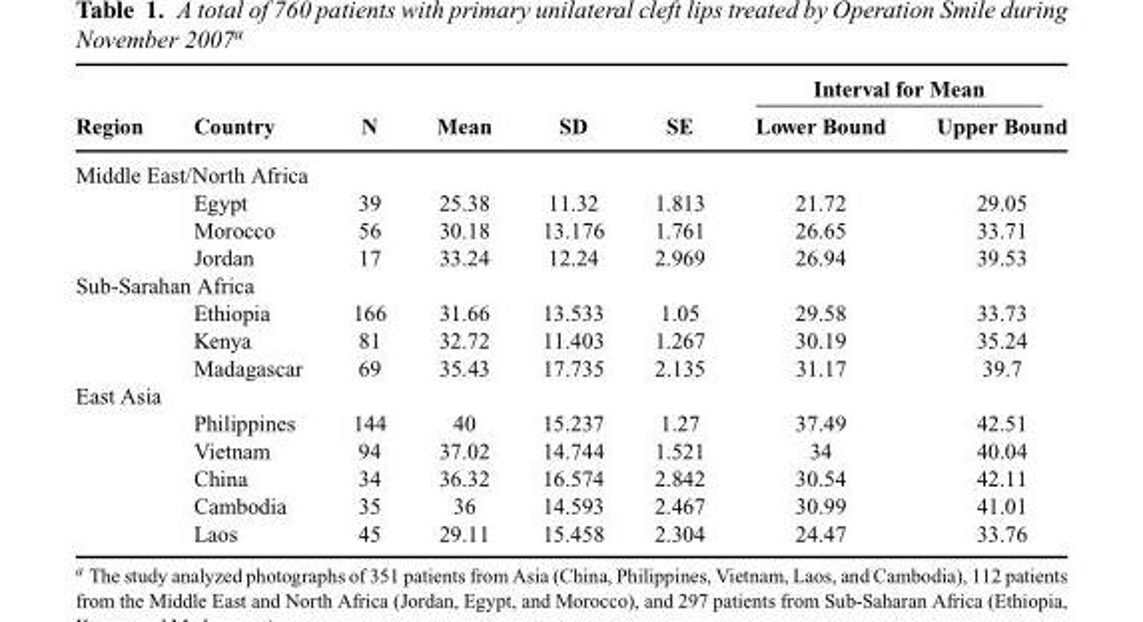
<table><thead><tr><td rowspan="2">Region</td><td rowspan="2">Country</td><td rowspan="2">N</td><td rowspan="2">Mean</td><td rowspan="2">SD</td><td rowspan="2">SE</td><td colspan="2">Interval for Mean</td></tr><tr><td>Lower Bound</td><td>Upper Bound</td></tr></thead><tbody><tr><td colspan="8">Middle East/North Africa</td></tr><tr><td></td><td>Egypt</td><td>39</td><td>25.38</td><td>11.32</td><td>1.813</td><td>21.72</td><td>29.05</td></tr><tr><td></td><td>Morocco</td><td>56</td><td>30.18</td><td>13.176</td><td>1.761</td><td>26.65</td><td>33.71</td></tr><tr><td></td><td>Jordan</td><td>17</td><td>33.24</td><td>12.24</td><td>2.969</td><td>26.94</td><td>39.53</td></tr><tr><td colspan="8">Sub-Sarahan Africa</td></tr><tr><td></td><td>Ethiopia</td><td>166</td><td>31.66</td><td>13.533</td><td>1.05</td><td>29.58</td><td>33.73</td></tr><tr><td></td><td>Kenya</td><td>81</td><td>32.72</td><td>11.403</td><td>1.267</td><td>30.19</td><td>35.24</td></tr><tr><td></td><td>Madagascar</td><td>69</td><td>35.43</td><td>17.735</td><td>2.135</td><td>31.17</td><td>39.7</td></tr><tr><td colspan="8">East Asia</td></tr><tr><td></td><td>Philippines</td><td>144</td><td>40</td><td>15.237</td><td>1.27</td><td>37.49</td><td>42.51</td></tr><tr><td></td><td>Vietnam</td><td>94</td><td>37.02</td><td>14.744</td><td>1.521</td><td>34</td><td>40.04</td></tr><tr><td></td><td>China</td><td>34</td><td>36.32</td><td>16.574</td><td>2.842</td><td>30.54</td><td>42.11</td></tr><tr><td></td><td>Cambodia</td><td>35</td><td>36</td><td>14.593</td><td>2.467</td><td>30.99</td><td>41.01</td></tr><tr><td></td><td>Laos</td><td>45</td><td>29.11</td><td>15.458</td><td>2.304</td><td>24.47</td><td>33.76</td></tr></tbody></table>